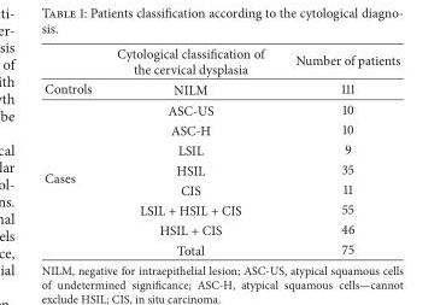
<table><thead><tr><td></td><td>Cytological classification of the cervical dysplasia</td><td>Number of patients</td></tr></thead><tbody><tr><td>Controls</td><td>NILM</td><td>111</td></tr><tr><td rowspan="8">Cases</td><td>ASC-US</td><td>10</td></tr><tr><td>ASC-H</td><td>10</td></tr><tr><td>LSIL</td><td>9</td></tr><tr><td>HSIL</td><td>35</td></tr><tr><td>CIS</td><td>11</td></tr><tr><td>LSIL + HSIL + CIS</td><td>55</td></tr><tr><td>HSIL + CIS</td><td>46</td></tr><tr><td>Total</td><td>75</td></tr></tbody></table>